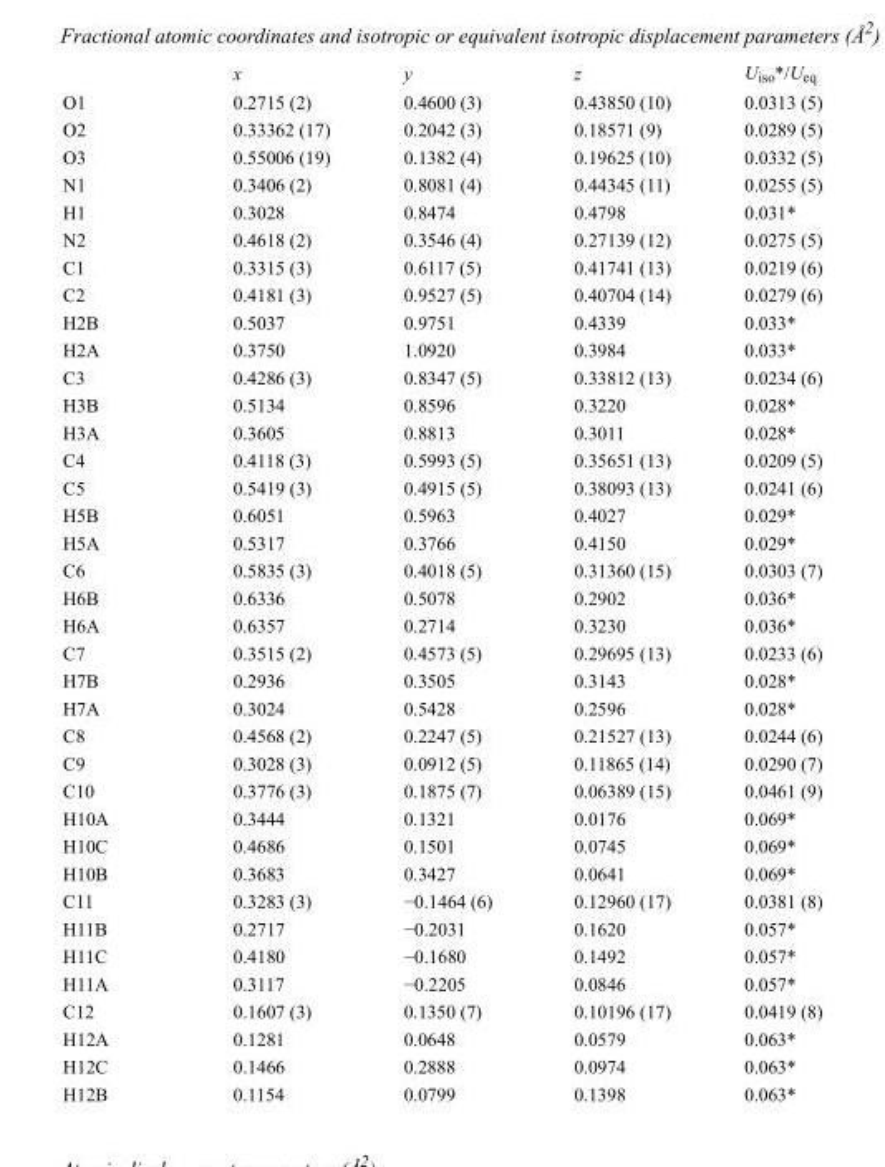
<table><thead><tr><td></td><td>x</td><td>y</td><td>z</td><td>U<sub>iso</sub>*/U<sub>eq</sub></td></tr></thead><tbody><tr><td>O1</td><td>0.2715 (2)</td><td>0.4600 (3)</td><td>0.43850 (10)</td><td>0.0313 (5)</td></tr><tr><td>O2</td><td>0.33362 (17)</td><td>0.2042 (3)</td><td>0.18571 (9)</td><td>0.0289 (5)</td></tr><tr><td>O3</td><td>0.55006 (19)</td><td>0.1382 (4)</td><td>0.19625 (10)</td><td>0.0332 (5)</td></tr><tr><td>N1</td><td>0.3406 (2)</td><td>0.8081 (4)</td><td>0.44345 (11)</td><td>0.0255 (5)</td></tr><tr><td>H1</td><td>0.3028</td><td>0.8474</td><td>0.4798</td><td>0.031*</td></tr><tr><td>N2</td><td>0.4618 (2)</td><td>0.3546 (4)</td><td>0.27139 (12)</td><td>0.0275 (5)</td></tr><tr><td>C1</td><td>0.3315 (3)</td><td>0.6117 (5)</td><td>0.41741 (13)</td><td>0.0219 (6)</td></tr><tr><td>C2</td><td>0.4181 (3)</td><td>0.9527 (5)</td><td>0.40704 (14)</td><td>0.0279 (6)</td></tr><tr><td>H2B</td><td>0.5037</td><td>0.9751</td><td>0.4339</td><td>0.033*</td></tr><tr><td>H2A</td><td>0.3750</td><td>1.0920</td><td>0.3984</td><td>0.033*</td></tr><tr><td>C3</td><td>0.4286 (3)</td><td>0.8347 (5)</td><td>0.33812 (13)</td><td>0.0234 (6)</td></tr><tr><td>H3B</td><td>0.5134</td><td>0.8596</td><td>0.3220</td><td>0.028*</td></tr><tr><td>H3A</td><td>0.3605</td><td>0.8813</td><td>0.3011</td><td>0.028*</td></tr><tr><td>C4</td><td>0.4118 (3)</td><td>0.5993 (5)</td><td>0.35651 (13)</td><td>0.0209 (5)</td></tr><tr><td>C5</td><td>0.5419 (3)</td><td>0.4915 (5)</td><td>0.38093 (13)</td><td>0.0241 (6)</td></tr><tr><td>H5B</td><td>0.6051</td><td>0.5963</td><td>0.4027</td><td>0.029*</td></tr><tr><td>H5A</td><td>0.5317</td><td>0.3766</td><td>0.4150</td><td>0.029*</td></tr><tr><td>C6</td><td>0.5835 (3)</td><td>0.4018 (5)</td><td>0.31360 (15)</td><td>0.0303 (7)</td></tr><tr><td>H6B</td><td>0.6336</td><td>0.5078</td><td>0.2902</td><td>0.036*</td></tr><tr><td>H6A</td><td>0.6357</td><td>0.2714</td><td>0.3230</td><td>0.036*</td></tr><tr><td>C7</td><td>0.3515 (2)</td><td>0.4573 (5)</td><td>0.29695 (13)</td><td>0.0233 (6)</td></tr><tr><td>H7B</td><td>0.2936</td><td>0.3505</td><td>0.3143</td><td>0.028*</td></tr><tr><td>H7A</td><td>0.3024</td><td>0.5428</td><td>0.2596</td><td>0.028*</td></tr><tr><td>C8</td><td>0.4568 (2)</td><td>0.2247 (5)</td><td>0.21527 (13)</td><td>0.0244 (6)</td></tr><tr><td>C9</td><td>0.3028 (3)</td><td>0.0912 (5)</td><td>0.11865 (14)</td><td>0.0290 (7)</td></tr><tr><td>C10</td><td>0.3776 (3)</td><td>0.1875 (7)</td><td>0.06389 (15)</td><td>0.0461 (9)</td></tr><tr><td>H10A</td><td>0.3444</td><td>0.1321</td><td>0.0176</td><td>0.069*</td></tr><tr><td>H10C</td><td>0.4686</td><td>0.1501</td><td>0.0745</td><td>0.069*</td></tr><tr><td>H10B</td><td>0.3683</td><td>0.3427</td><td>0.0641</td><td>0.069*</td></tr><tr><td>C11</td><td>0.3283 (3)</td><td>−0.1464 (6)</td><td>0.12960 (17)</td><td>0.0381 (8)</td></tr><tr><td>H11B</td><td>0.2717</td><td>−0.2031</td><td>0.1620</td><td>0.057*</td></tr><tr><td>H11C</td><td>0.4180</td><td>−0.1680</td><td>0.1492</td><td>0.057*</td></tr><tr><td>H11A</td><td>0.3117</td><td>−0.2205</td><td>0.0846</td><td>0.057*</td></tr><tr><td>C12</td><td>0.1607 (3)</td><td>0.1350 (7)</td><td>0.10196 (17)</td><td>0.0419 (8)</td></tr><tr><td>H12A</td><td>0.1281</td><td>0.0648</td><td>0.0579</td><td>0.063*</td></tr><tr><td>H12C</td><td>0.1466</td><td>0.2888</td><td>0.0974</td><td>0.063*</td></tr><tr><td>H12B</td><td>0.1154</td><td>0.0799</td><td>0.1398</td><td>0.063*</td></tr></tbody></table>